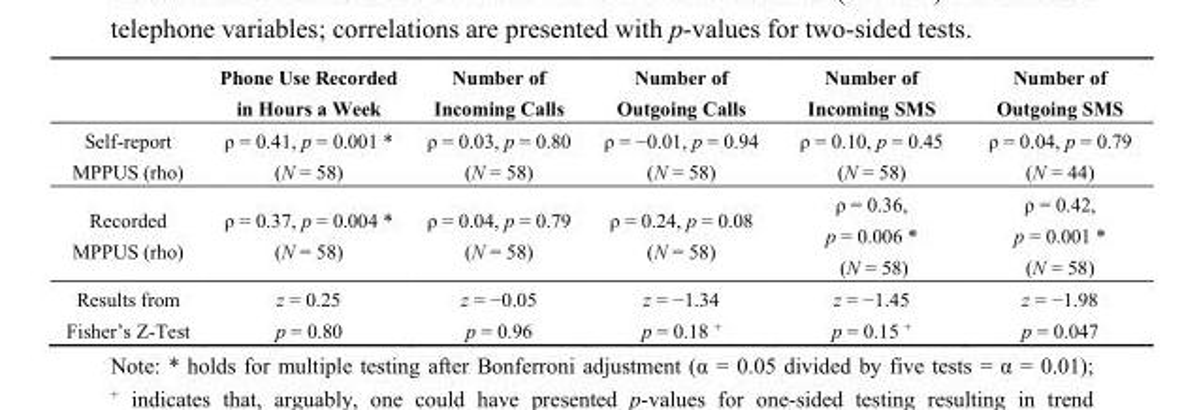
<table><thead><tr><td></td><td>Phone Use Recorded in Hours a Week</td><td>Number of Incoming Calls</td><td>Number of Outgoing Calls</td><td>Number of Incoming SMS</td><td>Number of Outgoing SMS</td></tr></thead><tbody><tr><td>Self-report MPPUS (rho)</td><td>ρ = 0.41, p = 0.001 * (N = 58)</td><td>ρ = 0.03, p = 0.80 (N = 58)</td><td>ρ = −0.01, p = 0.94 (N = 58)</td><td>ρ = 0.10, p = 0.45 (N = 58)</td><td>ρ = 0.04, p = 0.79 (N = 44)</td></tr><tr><td>Recorded MPPUS (rho)</td><td>ρ = 0.37, p = 0.004 * (N = 58)</td><td>ρ = 0.04, p = 0.79 (N = 58)</td><td>ρ = 0.24, p = 0.08 (N = 58)</td><td>ρ = 0.36, p = 0.006 * (N = 58)</td><td>ρ = 0.42, p = 0.001 * (N = 58)</td></tr><tr><td>Results from Fisher’s Z-Test</td><td>z = 0.25 p = 0.80</td><td>z = −0.05 p = 0.96</td><td>z = −1.34 p = 0.18 <sup>+</sup></td><td>z = −1.45 p = 0.15 <sup>+</sup></td><td>z = −1.98 p = 0.047</td></tr></tbody></table>